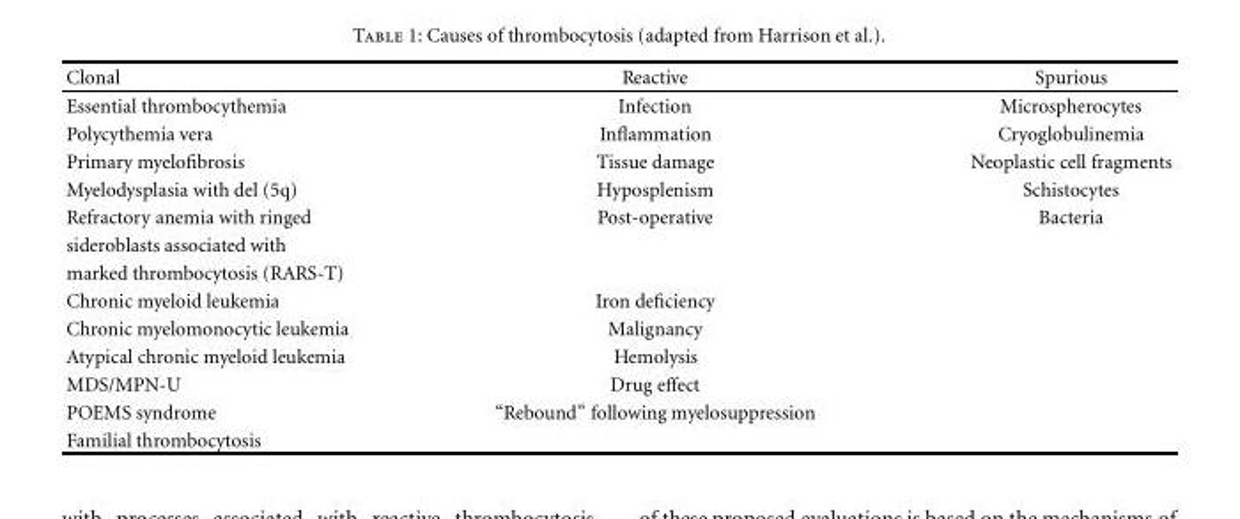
<table><thead><tr><td>Clonal</td><td>Reactive</td><td>Spurious</td></tr></thead><tbody><tr><td>Essential thrombocythemia</td><td>Infection</td><td>Microspherocytes</td></tr><tr><td>Polycythemia vera</td><td>Inflammation</td><td>Cryoglobulinemia</td></tr><tr><td>Primary myelofibrosis</td><td>Tissue damage</td><td>Neoplastic cell fragments</td></tr><tr><td>Myelodysplasia with del (5q)</td><td>Hyposplenism</td><td>Schistocytes</td></tr><tr><td>Refractory anemia with ringed</td><td>Post-operative</td><td>Bacteria</td></tr><tr><td colspan="3">sideroblasts associated with</td></tr><tr><td colspan="3">marked thrombocytosis (RARS-T)</td></tr><tr><td>Chronic myeloid leukemia</td><td>Iron deficiency</td><td></td></tr><tr><td>Chronic myelomonocytic leukemia</td><td>Malignancy</td><td></td></tr><tr><td>Atypical chronic myeloid leukemia</td><td>Hemolysis</td><td></td></tr><tr><td>MDS/MPN-U</td><td>Drug effect</td><td></td></tr><tr><td>POEMS syndrome</td><td>“Rebound” following myelosuppression</td><td></td></tr><tr><td>Familial thrombocytosis</td><td></td><td></td></tr></tbody></table>